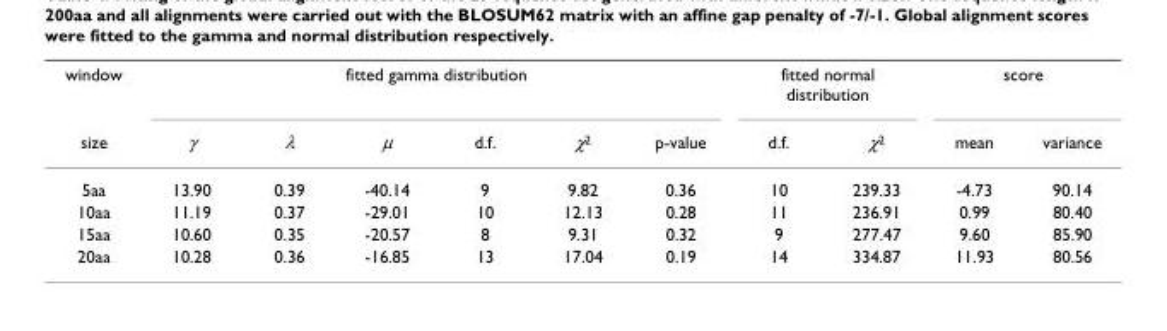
<table><thead><tr><td rowspan="2">window size</td><td colspan="6">fitted gamma distribution</td><td colspan="2">fitted normal distribution</td><td colspan="2">score</td></tr><tr><td>γ</td><td>λ</td><td>µ</td><td>d.f.</td><td>χ<sup>2</sup></td><td>p-value</td><td>d.f.</td><td>χ<sup>2</sup></td><td>mean</td><td>variance</td></tr></thead><tbody><tr><td>5aa</td><td>13.90</td><td>0.39</td><td>-40.14</td><td>9</td><td>9.82</td><td>0.36</td><td>10</td><td>239.33</td><td>-4.73</td><td>90.14</td></tr><tr><td>10aa</td><td>11.19</td><td>0.37</td><td>-29.01</td><td>10</td><td>12.13</td><td>0.28</td><td>11</td><td>236.91</td><td>0.99</td><td>80.40</td></tr><tr><td>15aa</td><td>10.60</td><td>0.35</td><td>-20.57</td><td>8</td><td>9.31</td><td>0.32</td><td>9</td><td>277.47</td><td>9.60</td><td>85.90</td></tr><tr><td>20aa</td><td>10.28</td><td>0.36</td><td>-16.85</td><td>13</td><td>17.04</td><td>0.19</td><td>14</td><td>334.87</td><td>11.93</td><td>80.56</td></tr></tbody></table>